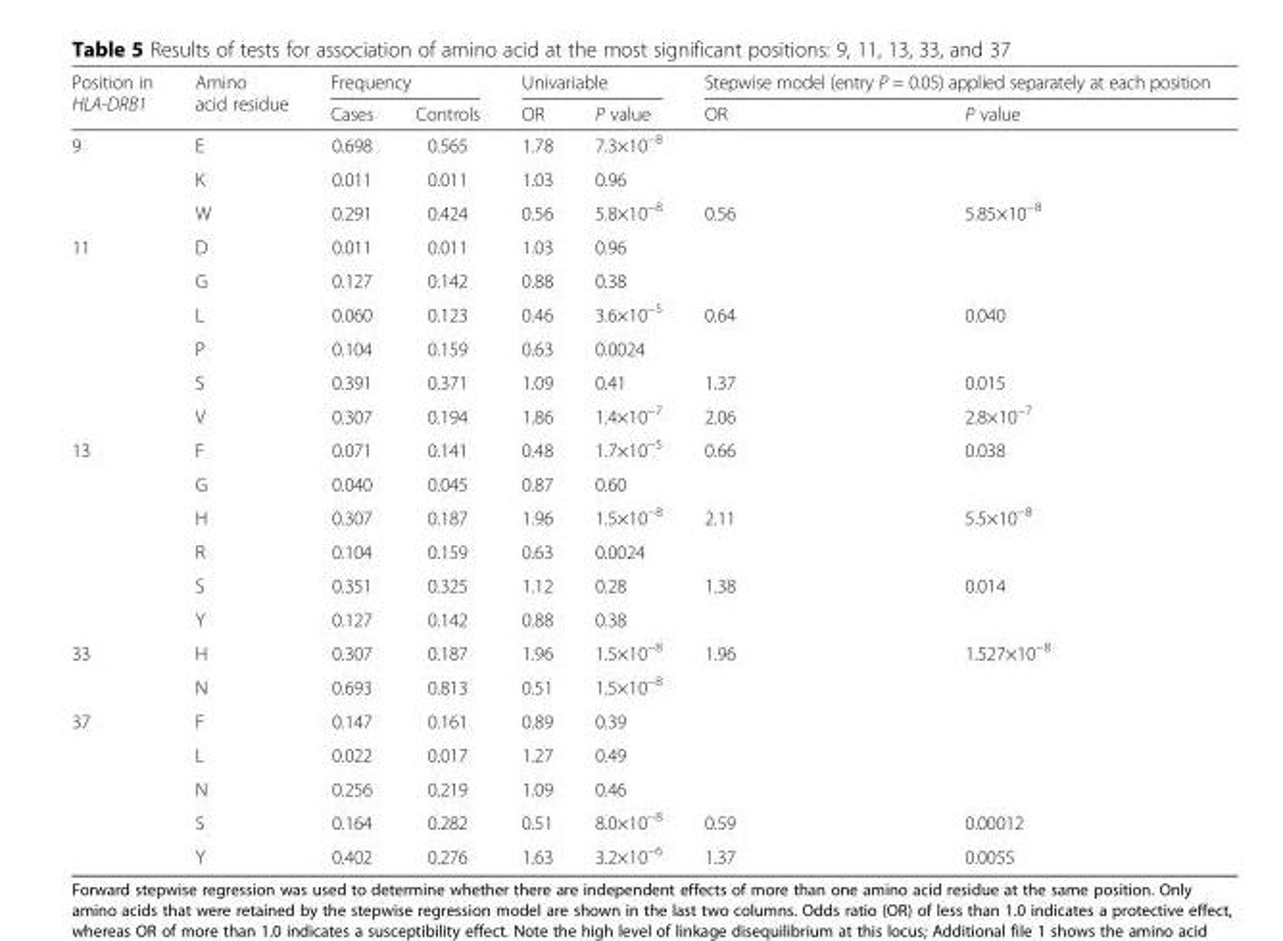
<table><thead><tr><td rowspan="2">Position in HLA-DRB1</td><td rowspan="2">Amino acid residue</td><td colspan="2">Frequency</td><td colspan="2">Univariable</td><td colspan="2">Stepwise model (entry P = 0.05) applied separately at each position</td></tr><tr><td>Cases</td><td>Controls</td><td>OR</td><td>P value</td><td>OR</td><td>P value</td></tr></thead><tbody><tr><td rowspan="3">9</td><td>E</td><td>0.698</td><td>0.565</td><td>1.78</td><td>7.3×10<sup>−8</sup></td><td></td><td></td></tr><tr><td>K</td><td>0.011</td><td>0.011</td><td>1.03</td><td>0.96</td><td></td><td></td></tr><tr><td>W</td><td>0.291</td><td>0.424</td><td>0.56</td><td>5.8×10<sup>−8</sup></td><td>0.56</td><td>5.85×10<sup>−8</sup></td></tr><tr><td rowspan="6">11</td><td>D</td><td>0.011</td><td>0.011</td><td>1.03</td><td>0.96</td><td></td><td></td></tr><tr><td>G</td><td>0.127</td><td>0.142</td><td>0.88</td><td>0.38</td><td></td><td></td></tr><tr><td>L</td><td>0.060</td><td>0.123</td><td>0.46</td><td>3.6×10<sup>−5</sup></td><td>0.64</td><td>0.040</td></tr><tr><td>P</td><td>0.104</td><td>0.159</td><td>0.63</td><td>0.0024</td><td></td><td></td></tr><tr><td>S</td><td>0.391</td><td>0.371</td><td>1.09</td><td>0.41</td><td>1.37</td><td>0.015</td></tr><tr><td>V</td><td>0.307</td><td>0.194</td><td>1.86</td><td>1.4×10<sup>−7</sup></td><td>2.06</td><td>2.8×10<sup>−7</sup></td></tr><tr><td rowspan="6">13</td><td>F</td><td>0.071</td><td>0.141</td><td>0.48</td><td>1.7×10<sup>−5</sup></td><td>0.66</td><td>0.038</td></tr><tr><td>G</td><td>0.040</td><td>0.045</td><td>0.87</td><td>0.60</td><td></td><td></td></tr><tr><td>H</td><td>0.307</td><td>0.187</td><td>1.96</td><td>1.5×10<sup>−8</sup></td><td>2.11</td><td>5.5×10<sup>−8</sup></td></tr><tr><td>R</td><td>0.104</td><td>0.159</td><td>0.63</td><td>0.0024</td><td></td><td></td></tr><tr><td>S</td><td>0.351</td><td>0.325</td><td>1.12</td><td>0.28</td><td>1.38</td><td>0.014</td></tr><tr><td>Y</td><td>0.127</td><td>0.142</td><td>0.88</td><td>0.38</td><td></td><td></td></tr><tr><td rowspan="2">33</td><td>H</td><td>0.307</td><td>0.187</td><td>1.96</td><td>1.5×10<sup>−8</sup></td><td>1.96</td><td>1.527×10<sup>−8</sup></td></tr><tr><td>N</td><td>0.693</td><td>0.813</td><td>0.51</td><td>1.5×10<sup>−8</sup></td><td></td><td></td></tr><tr><td rowspan="5">37</td><td>F</td><td>0.147</td><td>0.161</td><td>0.89</td><td>0.39</td><td></td><td></td></tr><tr><td>L</td><td>0.022</td><td>0.017</td><td>1.27</td><td>0.49</td><td></td><td></td></tr><tr><td>N</td><td>0.256</td><td>0.219</td><td>1.09</td><td>0.46</td><td></td><td></td></tr><tr><td>S</td><td>0.164</td><td>0.282</td><td>0.51</td><td>8.0×10<sup>−8</sup></td><td>0.59</td><td>0.00012</td></tr><tr><td>Y</td><td>0.402</td><td>0.276</td><td>1.63</td><td>3.2×10<sup>−6</sup></td><td>1.37</td><td>0.0055</td></tr></tbody></table>